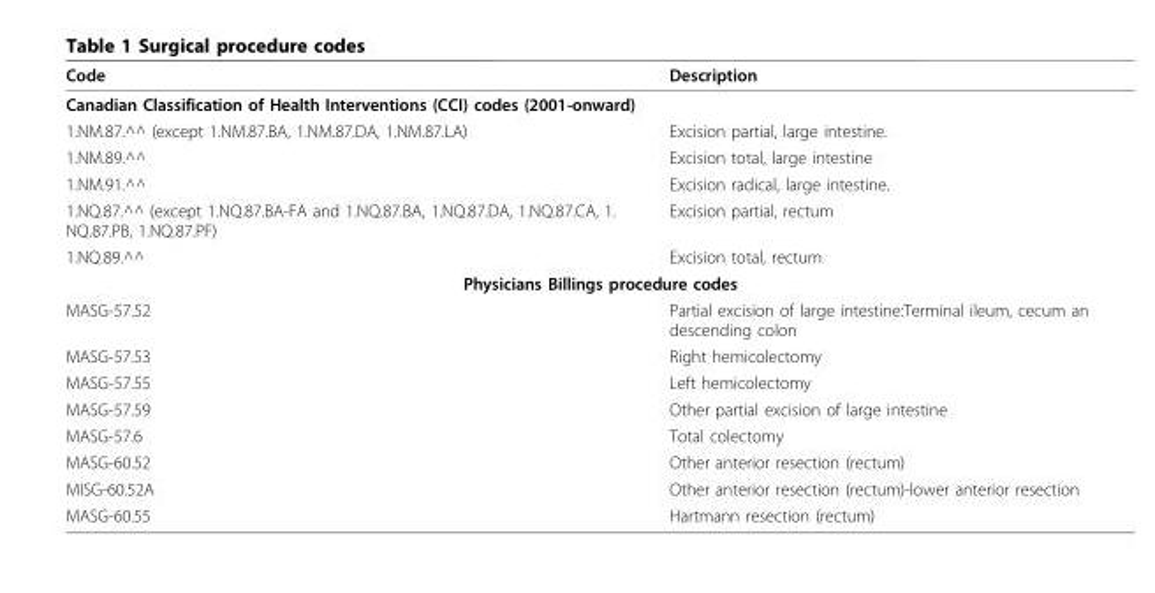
<table><thead><tr><td>Code</td><td>Description</td></tr></thead><tbody><tr><td colspan="2">Canadian Classification of Health Interventions (CCI) codes (2001-onward)</td></tr><tr><td>1.NM.87.^^ (except 1.NM.87.BA, 1.NM.87.DA, 1.NM.87.LA)</td><td>Excision partial, large intestine.</td></tr><tr><td>1.NM.89.^^</td><td>Excision total, large intestine</td></tr><tr><td>1.NM.91.^^</td><td>Excision radical, large intestine.</td></tr><tr><td>1.NQ.87.^^ (except 1.NQ.87.BA-FA and 1.NQ.87.BA, 1.NQ.87.DA, 1.NQ.87.CA, 1. NQ.87.PB, 1.NQ.87.PF)</td><td>Excision partial, rectum</td></tr><tr><td>1.NQ.89.^^</td><td>Excision total, rectum</td></tr><tr><td colspan="2">Physicians Billings procedure codes</td></tr><tr><td>MASG-57.52</td><td>Partial excision of large intestine:Terminal ileum, cecum an descending colon</td></tr><tr><td>MASG-57.53</td><td>Right hemicolectomy</td></tr><tr><td>MASG-57.55</td><td>Left hemicolectomy</td></tr><tr><td>MASG-57.59</td><td>Other partial excision of large intestine</td></tr><tr><td>MASG-57.6</td><td>Total colectomy</td></tr><tr><td>MASG-60.52</td><td>Other anterior resection (rectum)</td></tr><tr><td>MISG-60.52A</td><td>Other anterior resection (rectum)-lower anterior resection</td></tr><tr><td>MASG-60.55</td><td>Hartmann resection (rectum)</td></tr></tbody></table>